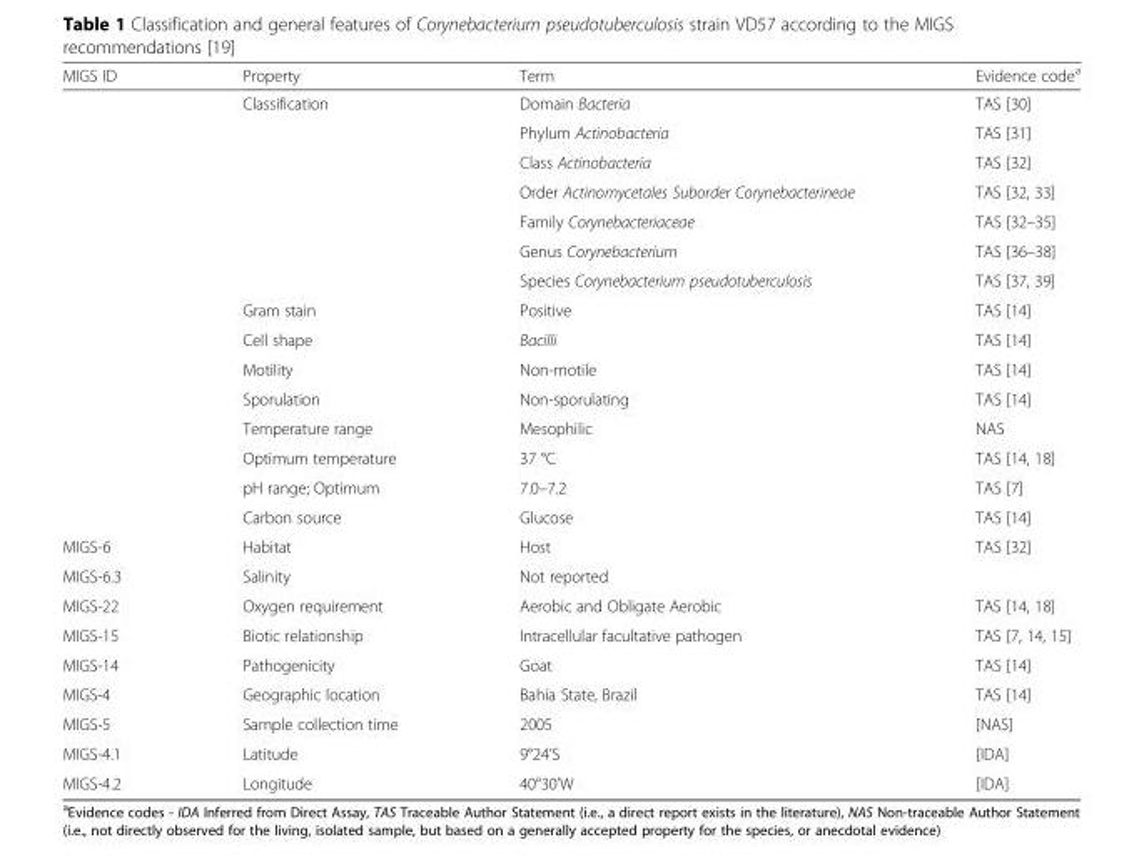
<table><thead><tr><td>MIGS ID</td><td>Property</td><td>Term</td><td>Evidence code<sup>a</sup></td></tr></thead><tbody><tr><td></td><td>Classification</td><td>Domain Bacteria</td><td>TAS [30]</td></tr><tr><td></td><td></td><td>Phylum Actinobacteria</td><td>TAS [31]</td></tr><tr><td></td><td></td><td>Class Actinobacteria</td><td>TAS [32]</td></tr><tr><td></td><td></td><td>Order Actinomycetales Suborder Corynebacterineae</td><td>TAS [32, 33]</td></tr><tr><td></td><td></td><td>Family Corynebacteriaceae</td><td>TAS [32–35]</td></tr><tr><td></td><td></td><td>Genus Corynebacterium</td><td>TAS [36–38]</td></tr><tr><td></td><td></td><td>Species Corynebacterium pseudotuberculosis</td><td>TAS [37, 39]</td></tr><tr><td></td><td>Gram stain</td><td>Positive</td><td>TAS [14]</td></tr><tr><td></td><td>Cell shape</td><td>Bacilli</td><td>TAS [14]</td></tr><tr><td></td><td>Motility</td><td>Non-motile</td><td>TAS [14]</td></tr><tr><td></td><td>Sporulation</td><td>Non-sporulating</td><td>TAS [14]</td></tr><tr><td></td><td>Temperature range</td><td>Mesophilic</td><td>NAS</td></tr><tr><td></td><td>Optimum temperature</td><td>37 °C</td><td>TAS [14, 18]</td></tr><tr><td></td><td>pH range; Optimum</td><td>7.0–7.2</td><td>TAS [7]</td></tr><tr><td></td><td>Carbon source</td><td>Glucose</td><td>TAS [14]</td></tr><tr><td>MIGS-6</td><td>Habitat</td><td>Host</td><td>TAS [32]</td></tr><tr><td>MIGS-6.3</td><td>Salinity</td><td>Not reported</td><td></td></tr><tr><td>MIGS-22</td><td>Oxygen requirement</td><td>Aerobic and Obligate Aerobic</td><td>TAS [14, 18]</td></tr><tr><td>MIGS-15</td><td>Biotic relationship</td><td>Intracellular facultative pathogen</td><td>TAS [7, 14, 15]</td></tr><tr><td>MIGS-14</td><td>Pathogenicity</td><td>Goat</td><td>TAS [14]</td></tr><tr><td>MIGS-4</td><td>Geographic location</td><td>Bahia State, Brazil</td><td>TAS [14]</td></tr><tr><td>MIGS-5</td><td>Sample collection time</td><td>2005</td><td>[NAS]</td></tr><tr><td>MIGS-4.1</td><td>Latitude</td><td>9°24’S</td><td>[IDA]</td></tr><tr><td>MIGS-4.2</td><td>Longitude</td><td>40°30’W</td><td>[IDA]</td></tr></tbody></table>